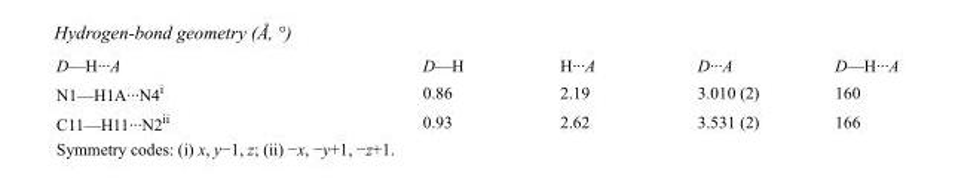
<table><tbody><tr><td>D—H···A</td><td>D—H</td><td>H···A</td><td>D···A</td><td>D—H···A</td></tr><tr><td>N1—H1A···N4<sup>i</sup></td><td>0.86</td><td>2.19</td><td>3.010 (2)</td><td>160</td></tr><tr><td>C11—H11···N2<sup>ii</sup></td><td>0.93</td><td>2.62</td><td>3.531 (2)</td><td>166</td></tr></tbody></table>